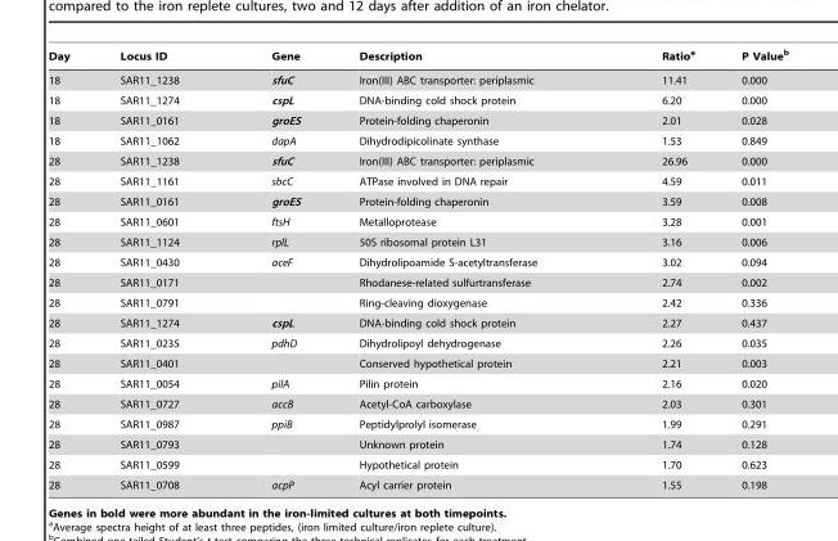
<table><thead><tr><td>Day</td><td>Locus ID</td><td>Gene</td><td>Description</td><td>Ratio<sup>a</sup></td><td>P Value<sup>b</sup></td></tr></thead><tbody><tr><td>18</td><td>SAR11_1238</td><td>sfuC</td><td>Iron(III) ABC transporter: periplasmic</td><td>11.41</td><td>0.000</td></tr><tr><td>18</td><td>SAR11_1274</td><td>cspL</td><td>DNA-binding cold shock protein</td><td>6.20</td><td>0.000</td></tr><tr><td>18</td><td>SAR11_0161</td><td>groES</td><td>Protein-folding chaperonin</td><td>2.01</td><td>0.028</td></tr><tr><td>18</td><td>SAR11_1062</td><td>dapA</td><td>Dihydrodipicolinate synthase</td><td>1.53</td><td>0.849</td></tr><tr><td>28</td><td>SAR11_1238</td><td>sfuC</td><td>Iron(III) ABC transporter: periplasmic</td><td>26.96</td><td>0.000</td></tr><tr><td>28</td><td>SAR11_1161</td><td>sbcC</td><td>ATPase involved in DNA repair</td><td>4.59</td><td>0.011</td></tr><tr><td>28</td><td>SAR11_0161</td><td>groES</td><td>Protein-folding chaperonin</td><td>3.59</td><td>0.008</td></tr><tr><td>28</td><td>SAR11_0601</td><td>ftsH</td><td>Metalloprotease</td><td>3.28</td><td>0.001</td></tr><tr><td>28</td><td>SAR11_1124</td><td>rplL</td><td>50S ribosomal protein L31</td><td>3.16</td><td>0.006</td></tr><tr><td>28</td><td>SAR11_0430</td><td>aceF</td><td>Dihydrolipoamide S-acetyltransferase</td><td>3.02</td><td>0.094</td></tr><tr><td>28</td><td>SAR11_0171</td><td></td><td>Rhodanese-related sulfurtransferase</td><td>2.74</td><td>0.002</td></tr><tr><td>28</td><td>SAR11_0791</td><td></td><td>Ring-cleaving dioxygenase</td><td>2.42</td><td>0.336</td></tr><tr><td>28</td><td>SAR11_1274</td><td>cspL</td><td>DNA-binding cold shock protein</td><td>2.27</td><td>0.437</td></tr><tr><td>28</td><td>SAR11_0235</td><td>pdhD</td><td>Dihydrolipoyl dehydrogenase</td><td>2.26</td><td>0.035</td></tr><tr><td>28</td><td>SAR11_0401</td><td></td><td>Conserved hypothetical protein</td><td>2.21</td><td>0.003</td></tr><tr><td>28</td><td>SAR11_0054</td><td>pilA</td><td>Pilin protein</td><td>2.16</td><td>0.020</td></tr><tr><td>28</td><td>SAR11_0727</td><td>accB</td><td>Acetyl-CoA carboxylase</td><td>2.03</td><td>0.301</td></tr><tr><td>28</td><td>SAR11_0987</td><td>ppiB</td><td>Peptidylprolyl isomerase</td><td>1.99</td><td>0.291</td></tr><tr><td>28</td><td>SAR11_0793</td><td></td><td>Unknown protein</td><td>1.74</td><td>0.128</td></tr><tr><td>28</td><td>SAR11_0599</td><td></td><td>Hypothetical protein</td><td>1.70</td><td>0.623</td></tr><tr><td>28</td><td>SAR11_0708</td><td>acpP</td><td>Acyl carrier protein</td><td>1.55</td><td>0.198</td></tr></tbody></table>